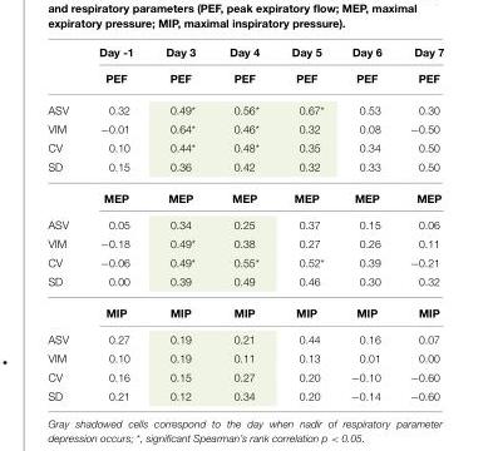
<table><thead><tr><td rowspan="2"></td><td rowspan="2">Day -1 PEF</td><td rowspan="2">Day 3 PEF</td><td rowspan="2">Day 4 PEF</td><td rowspan="2">Day 5 PEF</td><td rowspan="2">Day 6 PEF</td><td rowspan="2">Day 7 PEF</td></tr><tr></tr></thead><tbody><tr><td>ASV</td><td>0.32</td><td>0.49*</td><td>0.56*</td><td>0.67*</td><td>0.53</td><td>0.30</td></tr><tr><td>VIM</td><td>−0.01</td><td>0.64*</td><td>0.46*</td><td>0.32</td><td>0.08</td><td>−0.50</td></tr><tr><td>CV</td><td>0.10</td><td>0.44*</td><td>0.48*</td><td>0.35</td><td>0.34</td><td>0.50</td></tr><tr><td rowspan="2">SD</td><td>0.15</td><td>0.36</td><td>0.42</td><td>0.32</td><td>0.33</td><td>0.50</td></tr><tr><td>MEP</td><td>MEP</td><td>MEP</td><td>MEP</td><td>MEP</td><td>MEP</td></tr><tr><td>ASV</td><td>0.05</td><td>0.34</td><td>0.25</td><td>0.37</td><td>0.15</td><td>0.06</td></tr><tr><td>VIM</td><td>−0.18</td><td>0.49*</td><td>0.38</td><td>0.27</td><td>0.26</td><td>0.11</td></tr><tr><td>CV</td><td>−0.06</td><td>0.49*</td><td>0.55*</td><td>0.52*</td><td>0.39</td><td>−0.21</td></tr><tr><td rowspan="2">SD</td><td>0.00</td><td>0.39</td><td>0.49</td><td>0.46</td><td>0.30</td><td>0.32</td></tr><tr><td>MIP</td><td>MIP</td><td>MIP</td><td>MIP</td><td>MIP</td><td>MIP</td></tr><tr><td>ASV</td><td>0.27</td><td>0.19</td><td>0.21</td><td>0.44</td><td>0.16</td><td>0.07</td></tr><tr><td>VIM</td><td>0.10</td><td>0.19</td><td>0.11</td><td>0.13</td><td>0.01</td><td>0.00</td></tr><tr><td>CV</td><td>0.16</td><td>0.15</td><td>0.27</td><td>0.20</td><td>−0.10</td><td>−0.60</td></tr><tr><td>SD</td><td>0.21</td><td>0.12</td><td>0.34</td><td>0.20</td><td>−0.14</td><td>−0.60</td></tr></tbody></table>